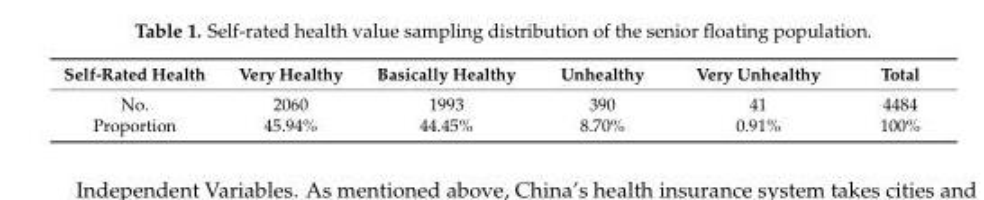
<table><thead><tr><td>Self-Rated Health</td><td>Very Healthy</td><td>Basically Healthy</td><td>Unhealthy</td><td>Very Unhealthy</td><td>Total</td></tr></thead><tbody><tr><td>No.</td><td>2060</td><td>1993</td><td>390</td><td>41</td><td>4484</td></tr><tr><td>Proportion</td><td>45.94%</td><td>44.45%</td><td>8.70%</td><td>0.91%</td><td>100%</td></tr></tbody></table>